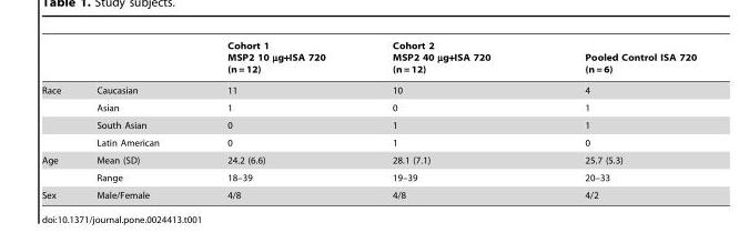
<table><thead><tr><td></td><td></td><td>Cohort 1 MSP2 10 µg+ISA 720 (n = 12)</td><td>Cohort 2 MSP2 40 µg+ISA 720 (n = 12)</td><td>Pooled Control ISA 720 (n = 6)</td></tr></thead><tbody><tr><td rowspan="4">Race</td><td>Caucasian</td><td>11</td><td>10</td><td>4</td></tr><tr><td>Asian</td><td>1</td><td>0</td><td>1</td></tr><tr><td>South Asian</td><td>0</td><td>1</td><td>1</td></tr><tr><td>Latin American</td><td>0</td><td>1</td><td>0</td></tr><tr><td rowspan="2">Age</td><td>Mean (SD)</td><td>24.2 (6.6)</td><td>28.1 (7.1)</td><td>25.7 (5.3)</td></tr><tr><td>Range</td><td>18–39</td><td>19–39</td><td>20–33</td></tr><tr><td>Sex</td><td>Male/Female</td><td>4/8</td><td>4/8</td><td>4/2</td></tr></tbody></table>